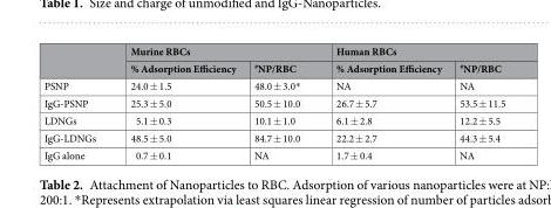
<table><thead><tr><td rowspan="2"></td><td colspan="2">Murine RBCs</td><td colspan="2">Human RBCs</td></tr><tr><td>% Adsorption Efficiency</td><td><sup>#</sup>NP/RBC</td><td>% Adsorption Efficiency</td><td><sup>#</sup>NP/RBC</td></tr></thead><tbody><tr><td>PSNP</td><td>24.0 ± 1.5</td><td>48.0 ± 3.0*</td><td>NA</td><td>NA</td></tr><tr><td>IgG-PSNP</td><td>25.3 ± 5.0</td><td>50.5 ± 10.0</td><td>26.7 ± 5.7</td><td>53.5 ± 11.5</td></tr><tr><td>LDNGs</td><td>5.1 ± 0.3</td><td>10.1 ± 1.0</td><td>6.1 ± 2.8</td><td>12.2 ± 5.5</td></tr><tr><td>IgG-LDNGs</td><td>48.5 ± 5.0</td><td>84.7 ± 10.0</td><td>22.2 ± 2.7</td><td>44.3 ± 5.4</td></tr><tr><td>IgG alone</td><td>0.7 ± 0.1</td><td>NA</td><td>1.7 ± 0.4</td><td>NA</td></tr></tbody></table>